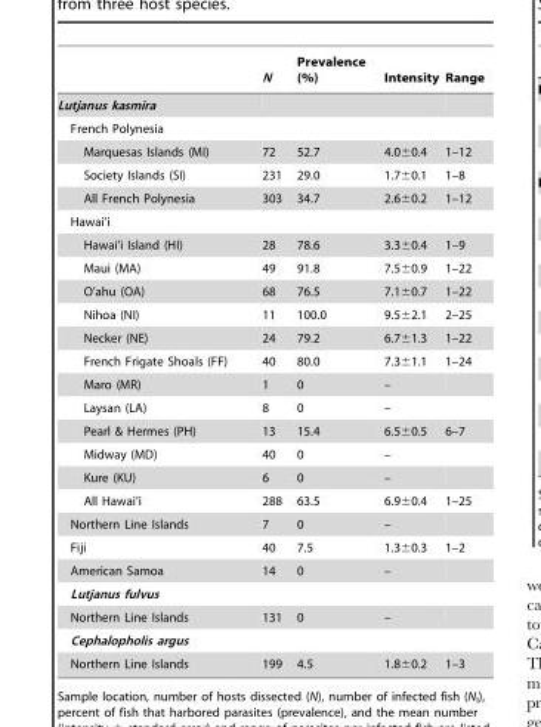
<table><thead><tr><td></td><td>N</td><td>Prevalence (%)</td><td>Intensity</td><td>Range</td></tr></thead><tbody><tr><td colspan="5">Lutjanus kasmira</td></tr><tr><td colspan="5">French Polynesia</td></tr><tr><td>Marquesas Islands (MI)</td><td>72</td><td>52.7</td><td>4.0±0.4</td><td>1–12</td></tr><tr><td>Society Islands (SI)</td><td>231</td><td>29.0</td><td>1.7±0.1</td><td>1–8</td></tr><tr><td>All French Polynesia</td><td>303</td><td>34.7</td><td>2.6±0.2</td><td>1–12</td></tr><tr><td colspan="5">Hawai’i</td></tr><tr><td>Hawai’i Island (HI)</td><td>28</td><td>78.6</td><td>3.3±0.4</td><td>1–9</td></tr><tr><td>Maui (MA)</td><td>49</td><td>91.8</td><td>7.5±0.9</td><td>1–22</td></tr><tr><td>O’ahu (OA)</td><td>68</td><td>76.5</td><td>7.1±0.7</td><td>1–22</td></tr><tr><td>Nihoa (NI)</td><td>11</td><td>100.0</td><td>9.5±2.1</td><td>2–25</td></tr><tr><td>Necker (NE)</td><td>24</td><td>79.2</td><td>6.7±1.3</td><td>1–22</td></tr><tr><td>French Frigate Shoals (FF)</td><td>40</td><td>80.0</td><td>7.3±1.1</td><td>1–24</td></tr><tr><td>Maro (MR)</td><td>1</td><td>0</td><td>–</td><td></td></tr><tr><td>Laysan (LA)</td><td>8</td><td>0</td><td>–</td><td></td></tr><tr><td>Pearl &amp; Hermes (PH)</td><td>13</td><td>15.4</td><td>6.5±0.5</td><td>6–7</td></tr><tr><td>Midway (MD)</td><td>40</td><td>0</td><td>–</td><td></td></tr><tr><td>Kure (KU)</td><td>6</td><td>0</td><td>–</td><td></td></tr><tr><td>All Hawai’i</td><td>288</td><td>63.5</td><td>6.9±0.4</td><td>1–25</td></tr><tr><td>Northern Line Islands</td><td>7</td><td>0</td><td>–</td><td></td></tr><tr><td>Fiji</td><td>40</td><td>7.5</td><td>1.3±0.3</td><td>1–2</td></tr><tr><td>American Samoa</td><td>14</td><td>0</td><td>–</td><td></td></tr><tr><td colspan="5">Lutjanus fulvus</td></tr><tr><td>Northern Line Islands</td><td>131</td><td>0</td><td>–</td><td></td></tr><tr><td colspan="5">Cephalopholis argus</td></tr><tr><td>Northern Line Islands</td><td>199</td><td>4.5</td><td>1.8±0.2</td><td>1–3</td></tr></tbody></table>